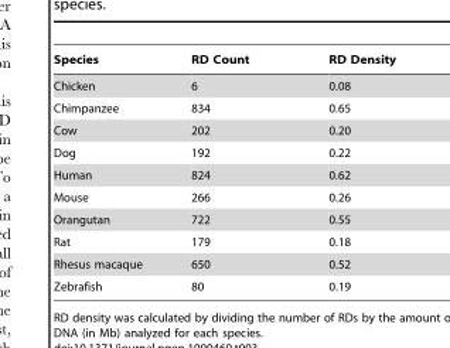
<table><thead><tr><td>Species</td><td>RD Count</td><td>RD Density</td></tr></thead><tbody><tr><td>Chicken</td><td>6</td><td>0.08</td></tr><tr><td>Chimpanzee</td><td>834</td><td>0.65</td></tr><tr><td>Cow</td><td>202</td><td>0.20</td></tr><tr><td>Dog</td><td>192</td><td>0.22</td></tr><tr><td>Human</td><td>824</td><td>0.62</td></tr><tr><td>Mouse</td><td>266</td><td>0.26</td></tr><tr><td>Orangutan</td><td>722</td><td>0.55</td></tr><tr><td>Rat</td><td>179</td><td>0.18</td></tr><tr><td>Rhesus macaque</td><td>650</td><td>0.52</td></tr><tr><td>Zebrafish</td><td>80</td><td>0.19</td></tr></tbody></table>